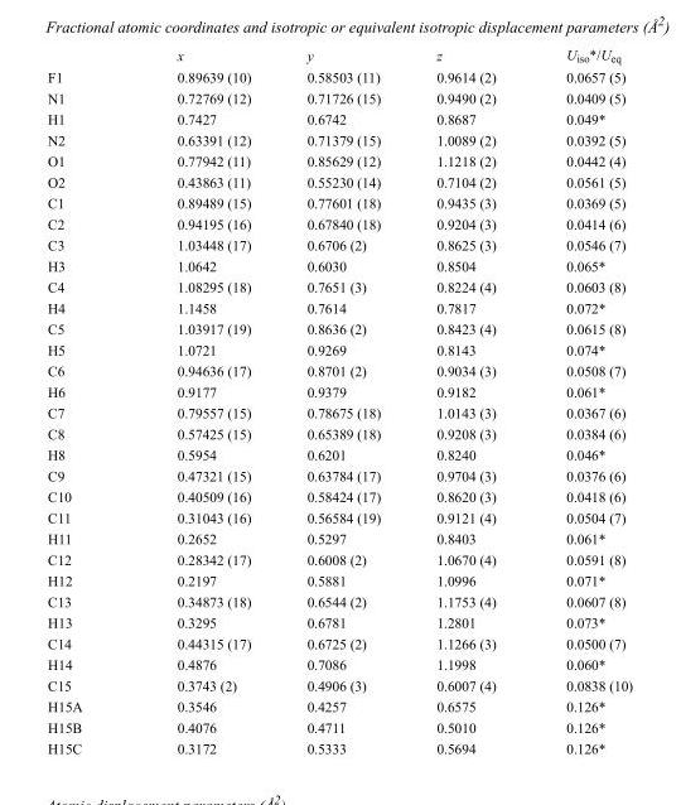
<table><thead><tr><td></td><td>x</td><td>y</td><td>z</td><td>U<sub>iso</sub>*/U<sub>eq</sub></td></tr></thead><tbody><tr><td>F1</td><td>0.89639 (10)</td><td>0.58503 (11)</td><td>0.9614 (2)</td><td>0.0657 (5)</td></tr><tr><td>N1</td><td>0.72769 (12)</td><td>0.71726 (15)</td><td>0.9490 (2)</td><td>0.0409 (5)</td></tr><tr><td>H1</td><td>0.7427</td><td>0.6742</td><td>0.8687</td><td>0.049*</td></tr><tr><td>N2</td><td>0.63391 (12)</td><td>0.71379 (15)</td><td>1.0089 (2)</td><td>0.0392 (5)</td></tr><tr><td>O1</td><td>0.77942 (11)</td><td>0.85629 (12)</td><td>1.1218 (2)</td><td>0.0442 (4)</td></tr><tr><td>O2</td><td>0.43863 (11)</td><td>0.55230 (14)</td><td>0.7104 (2)</td><td>0.0561 (5)</td></tr><tr><td>C1</td><td>0.89489 (15)</td><td>0.77601 (18)</td><td>0.9435 (3)</td><td>0.0369 (5)</td></tr><tr><td>C2</td><td>0.94195 (16)</td><td>0.67840 (18)</td><td>0.9204 (3)</td><td>0.0414 (6)</td></tr><tr><td>C3</td><td>1.03448 (17)</td><td>0.6706 (2)</td><td>0.8625 (3)</td><td>0.0546 (7)</td></tr><tr><td>H3</td><td>1.0642</td><td>0.6030</td><td>0.8504</td><td>0.065*</td></tr><tr><td>C4</td><td>1.08295 (18)</td><td>0.7651 (3)</td><td>0.8224 (4)</td><td>0.0603 (8)</td></tr><tr><td>H4</td><td>1.1458</td><td>0.7614</td><td>0.7817</td><td>0.072*</td></tr><tr><td>C5</td><td>1.03917 (19)</td><td>0.8636 (2)</td><td>0.8423 (4)</td><td>0.0615 (8)</td></tr><tr><td>H5</td><td>1.0721</td><td>0.9269</td><td>0.8143</td><td>0.074*</td></tr><tr><td>C6</td><td>0.94636 (17)</td><td>0.8701 (2)</td><td>0.9034 (3)</td><td>0.0508 (7)</td></tr><tr><td>H6</td><td>0.9177</td><td>0.9379</td><td>0.9182</td><td>0.061*</td></tr><tr><td>C7</td><td>0.79557 (15)</td><td>0.78675 (18)</td><td>1.0143 (3)</td><td>0.0367 (6)</td></tr><tr><td>C8</td><td>0.57425 (15)</td><td>0.65389 (18)</td><td>0.9208 (3)</td><td>0.0384 (6)</td></tr><tr><td>H8</td><td>0.5954</td><td>0.6201</td><td>0.8240</td><td>0.046*</td></tr><tr><td>C9</td><td>0.47321 (15)</td><td>0.63784 (17)</td><td>0.9704 (3)</td><td>0.0376 (6)</td></tr><tr><td>C10</td><td>0.40509 (16)</td><td>0.58424 (17)</td><td>0.8620 (3)</td><td>0.0418 (6)</td></tr><tr><td>C11</td><td>0.31043 (16)</td><td>0.56584 (19)</td><td>0.9121 (4)</td><td>0.0504 (7)</td></tr><tr><td>H11</td><td>0.2652</td><td>0.5297</td><td>0.8403</td><td>0.061*</td></tr><tr><td>C12</td><td>0.28342 (17)</td><td>0.6008 (2)</td><td>1.0670 (4)</td><td>0.0591 (8)</td></tr><tr><td>H12</td><td>0.2197</td><td>0.5881</td><td>1.0996</td><td>0.071*</td></tr><tr><td>C13</td><td>0.34873 (18)</td><td>0.6544 (2)</td><td>1.1753 (4)</td><td>0.0607 (8)</td></tr><tr><td>H13</td><td>0.3295</td><td>0.6781</td><td>1.2801</td><td>0.073*</td></tr><tr><td>C14</td><td>0.44315 (17)</td><td>0.6725 (2)</td><td>1.1266 (3)</td><td>0.0500 (7)</td></tr><tr><td>H14</td><td>0.4876</td><td>0.7086</td><td>1.1998</td><td>0.060*</td></tr><tr><td>C15</td><td>0.3743 (2)</td><td>0.4906 (3)</td><td>0.6007 (4)</td><td>0.0838 (10)</td></tr><tr><td>H15A</td><td>0.3546</td><td>0.4257</td><td>0.6575</td><td>0.126*</td></tr><tr><td>H15B</td><td>0.4076</td><td>0.4711</td><td>0.5010</td><td>0.126*</td></tr><tr><td>H15C</td><td>0.3172</td><td>0.5333</td><td>0.5694</td><td>0.126*</td></tr></tbody></table>